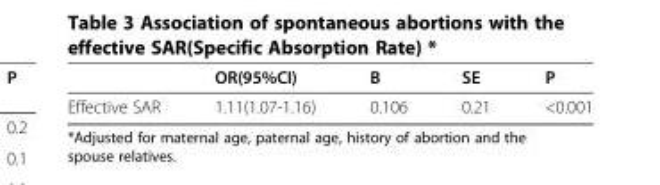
<table><thead><tr><td></td><td>OR(95%CI)</td><td>B</td><td>SE</td><td>P</td></tr></thead><tbody><tr><td>Effective SAR</td><td>1.11(1.07-1.16)</td><td>0.106</td><td>0.21</td><td>&lt;0.001</td></tr></tbody></table>